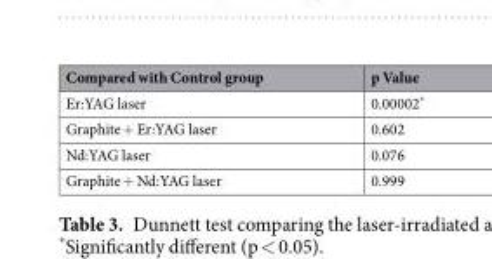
<table><thead><tr><td>Compared with Control group</td><td>p Value</td></tr></thead><tbody><tr><td>Er:YAG laser</td><td>0.00002*</td></tr><tr><td>Graphite + Er:YAG laser</td><td>0.602</td></tr><tr><td>Nd:YAG laser</td><td>0.076</td></tr><tr><td>Graphite + Nd:YAG laser</td><td>0.999</td></tr></tbody></table>